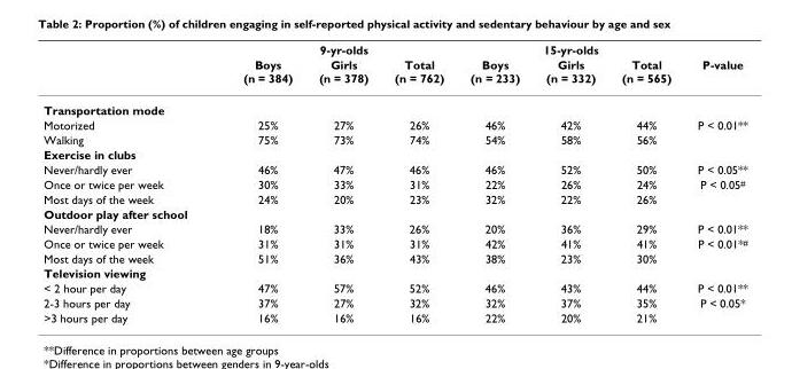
<table><thead><tr><td rowspan="2"></td><td colspan="3">9-yr-olds</td><td colspan="3">15-yr-olds</td><td rowspan="2">P-value</td></tr><tr><td>Boys (n = 384)</td><td>Girls (n = 378)</td><td>Total (n = 762)</td><td>Boys (n = 233)</td><td>Girls (n = 332)</td><td>Total (n = 565)</td></tr></thead><tbody><tr><td colspan="8">Transportation mode</td></tr><tr><td>Motorized</td><td>25%</td><td>27%</td><td>26%</td><td>46%</td><td>42%</td><td>44%</td><td>P &lt; 0.01**</td></tr><tr><td>Walking</td><td>75%</td><td>73%</td><td>74%</td><td>54%</td><td>58%</td><td>56%</td><td></td></tr><tr><td colspan="8">Exercise in clubs</td></tr><tr><td>Never/hardly ever</td><td>46%</td><td>47%</td><td>46%</td><td>46%</td><td>52%</td><td>50%</td><td>P &lt; 0.05**</td></tr><tr><td>Once or twice per week</td><td>30%</td><td>33%</td><td>31%</td><td>22%</td><td>26%</td><td>24%</td><td>P &lt; 0.05<sup>#</sup></td></tr><tr><td>Most days of the week</td><td>24%</td><td>20%</td><td>23%</td><td>32%</td><td>22%</td><td>26%</td><td></td></tr><tr><td colspan="8">Outdoor play after school</td></tr><tr><td>Never/hardly ever</td><td>18%</td><td>33%</td><td>26%</td><td>20%</td><td>36%</td><td>29%</td><td>P &lt; 0.01**</td></tr><tr><td>Once or twice per week</td><td>31%</td><td>31%</td><td>31%</td><td>42%</td><td>41%</td><td>41%</td><td>P &lt; 0.01*<sup>#</sup></td></tr><tr><td>Most days of the week</td><td>51%</td><td>36%</td><td>43%</td><td>38%</td><td>23%</td><td>30%</td><td></td></tr><tr><td colspan="8">Television viewing</td></tr><tr><td>&lt; 2 hour per day</td><td>47%</td><td>57%</td><td>52%</td><td>46%</td><td>43%</td><td>44%</td><td>P &lt; 0.01**</td></tr><tr><td>2-3 hours per day</td><td>37%</td><td>27%</td><td>32%</td><td>32%</td><td>37%</td><td>35%</td><td>P &lt; 0.05*</td></tr><tr><td>&gt;3 hours per day</td><td>16%</td><td>16%</td><td>16%</td><td>22%</td><td>20%</td><td>21%</td><td></td></tr></tbody></table>